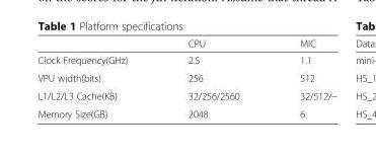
<table><thead><tr><td></td><td>CPU</td><td>MIC</td></tr></thead><tbody><tr><td>Clock Frequency(GHz)</td><td>2.5</td><td>1.1</td></tr><tr><td>VPU width(bits)</td><td>256</td><td>512</td></tr><tr><td>L1/L2/L3 Cache(KB)</td><td>32/256/2560</td><td>32/512/−</td></tr><tr><td>Memory Size(GB)</td><td>2048</td><td>6</td></tr></tbody></table>